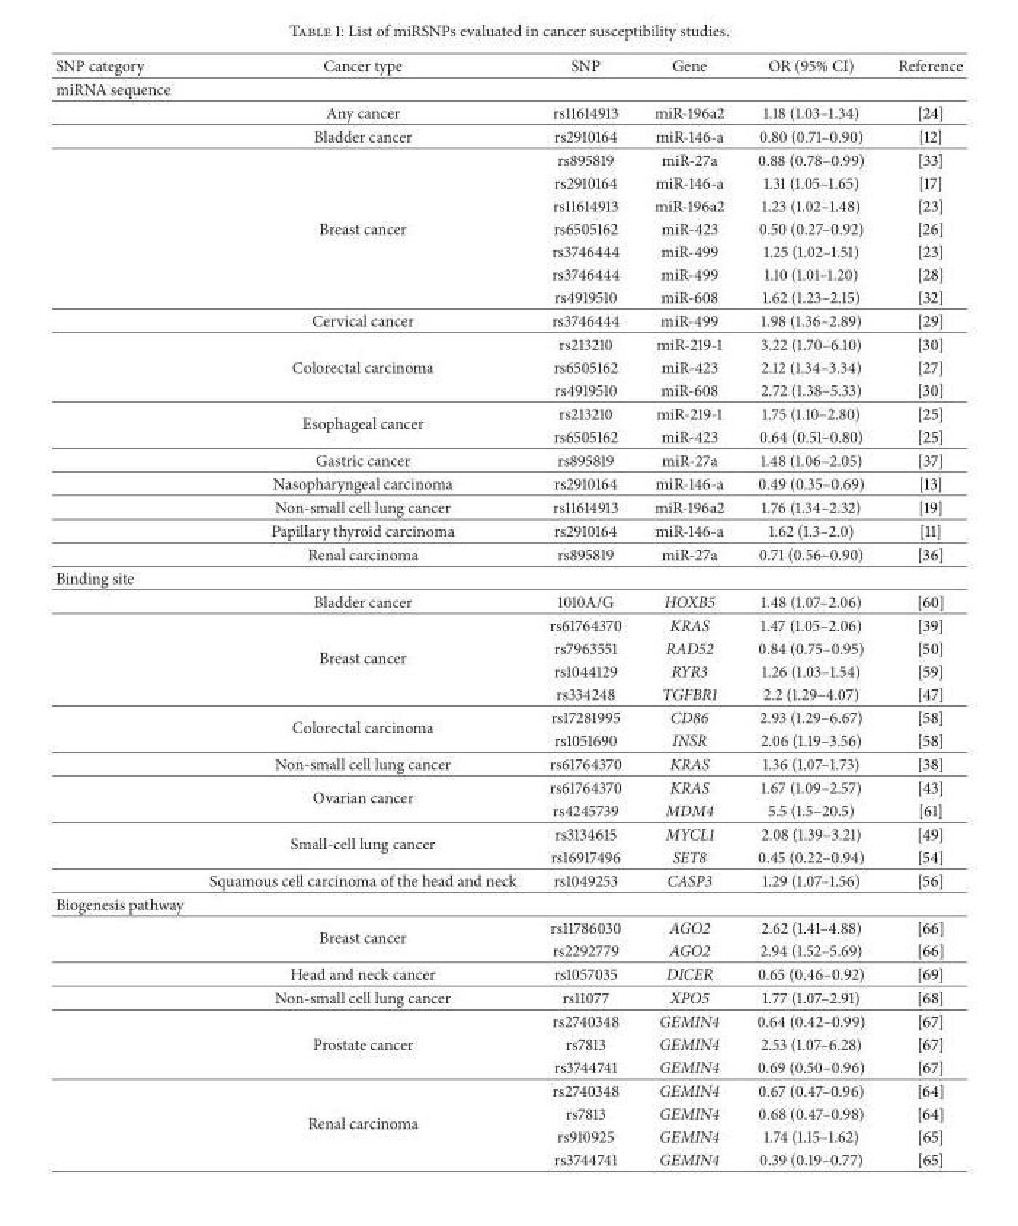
<table><thead><tr><td>SNP category</td><td>Cancer type</td><td>SNP</td><td>Gene</td><td>OR (95% CI)</td><td>Reference</td></tr></thead><tbody><tr><td colspan="6">miRNA sequence</td></tr><tr><td></td><td>Any cancer</td><td>rs11614913</td><td>miR-196a2</td><td>1.18 (1.03–1.34)</td><td>[24]</td></tr><tr><td></td><td>Bladder cancer</td><td>rs2910164</td><td>miR-146-a</td><td>0.80 (0.71–0.90)</td><td>[12]</td></tr><tr><td></td><td></td><td>rs895819</td><td>miR-27a</td><td>0.88 (0.78–0.99)</td><td>[33]</td></tr><tr><td></td><td></td><td>rs2910164</td><td>miR-146-a</td><td>1.31 (1.05–1.65)</td><td>[17]</td></tr><tr><td></td><td></td><td>rs11614913</td><td>miR-196a2</td><td>1.23 (1.02–1.48)</td><td>[23]</td></tr><tr><td></td><td>Breast cancer</td><td>rs6505162</td><td>miR-423</td><td>0.50 (0.27–0.92)</td><td>[26]</td></tr><tr><td></td><td></td><td>rs3746444</td><td>miR-499</td><td>1.25 (1.02–1.51)</td><td>[23]</td></tr><tr><td></td><td></td><td>rs3746444</td><td>miR-499</td><td>1.10 (1.01–1.20)</td><td>[28]</td></tr><tr><td></td><td></td><td>rs4919510</td><td>miR-608</td><td>1.62 (1.23–2.15)</td><td>[32]</td></tr><tr><td></td><td>Cervical cancer</td><td>rs3746444</td><td>miR-499</td><td>1.98 (1.36–2.89)</td><td>[29]</td></tr><tr><td></td><td></td><td>rs213210</td><td>miR-219-1</td><td>3.22 (1.70–6.10)</td><td>[30]</td></tr><tr><td></td><td>Colorectal carcinoma</td><td>rs6505162</td><td>miR-423</td><td>2.12 (1.34–3.34)</td><td>[27]</td></tr><tr><td></td><td></td><td>rs4919510</td><td>miR-608</td><td>2.72 (1.38–5.33)</td><td>[30]</td></tr><tr><td></td><td rowspan="2">Esophageal cancer</td><td>rs213210</td><td>miR-219-1</td><td>1.75 (1.10–2.80)</td><td>[25]</td></tr><tr><td></td><td>rs6505162</td><td>miR-423</td><td>0.64 (0.51–0.80)</td><td>[25]</td></tr><tr><td></td><td>Gastric cancer</td><td>rs895819</td><td>miR-27a</td><td>1.48 (1.06–2.05)</td><td>[37]</td></tr><tr><td></td><td>Nasopharyngeal carcinoma</td><td>rs2910164</td><td>miR-146-a</td><td>0.49 (0.35–0.69)</td><td>[13]</td></tr><tr><td></td><td>Non-small cell lung cancer</td><td>rs11614913</td><td>miR-196a2</td><td>1.76 (1.34–2.32)</td><td>[19]</td></tr><tr><td></td><td>Papillary thyroid carcinoma</td><td>rs2910164</td><td>miR-146-a</td><td>1.62 (1.3–2.0)</td><td>[11]</td></tr><tr><td></td><td>Renal carcinoma</td><td>rs895819</td><td>miR-27a</td><td>0.71 (0.56–0.90)</td><td>[36]</td></tr><tr><td colspan="6">Binding site</td></tr><tr><td></td><td>Bladder cancer</td><td>1010A/G</td><td>HOXB5</td><td>1.48 (1.07–2.06)</td><td>[60]</td></tr><tr><td></td><td></td><td>rs61764370</td><td>KRAS</td><td>1.47 (1.05–2.06)</td><td>[39]</td></tr><tr><td></td><td rowspan="2">Breast cancer</td><td>rs7963551</td><td>RAD52</td><td>0.84 (0.75–0.95)</td><td>[50]</td></tr><tr><td></td><td>rs1044129</td><td>RYR3</td><td>1.26 (1.03–1.54)</td><td>[59]</td></tr><tr><td></td><td></td><td>rs334248</td><td>TGFBR1</td><td>2.2 (1.29–4.07)</td><td>[47]</td></tr><tr><td></td><td rowspan="2">Colorectal carcinoma</td><td>rs17281995</td><td>CD86</td><td>2.93 (1.29–6.67)</td><td>[58]</td></tr><tr><td></td><td>rs1051690</td><td>INSR</td><td>2.06 (1.19–3.56)</td><td>[58]</td></tr><tr><td></td><td>Non-small cell lung cancer</td><td>rs61764370</td><td>KRAS</td><td>1.36 (1.07–1.73)</td><td>[38]</td></tr><tr><td></td><td rowspan="2">Ovarian cancer</td><td>rs61764370</td><td>KRAS</td><td>1.67 (1.09–2.57)</td><td>[43]</td></tr><tr><td></td><td>rs4245739</td><td>MDM4</td><td>5.5 (1.5–20.5)</td><td>[61]</td></tr><tr><td></td><td rowspan="2">Small-cell lung cancer</td><td>rs3134615</td><td>MYCL1</td><td>2.08 (1.39–3.21)</td><td>[49]</td></tr><tr><td></td><td>rs16917496</td><td>SET8</td><td>0.45 (0.22–0.94)</td><td>[54]</td></tr><tr><td></td><td>Squamous cell carcinoma of the head and neck</td><td>rs1049253</td><td>CASP3</td><td>1.29 (1.07–1.56)</td><td>[56]</td></tr><tr><td colspan="6">Biogenesis pathway</td></tr><tr><td></td><td rowspan="2">Breast cancer</td><td>rs11786030</td><td>AGO2</td><td>2.62 (1.41–4.88)</td><td>[66]</td></tr><tr><td></td><td>rs2292779</td><td>AGO2</td><td>2.94 (1.52–5.69)</td><td>[66]</td></tr><tr><td></td><td>Head and neck cancer</td><td>rs1057035</td><td>DICER</td><td>0.65 (0.46–0.92)</td><td>[69]</td></tr><tr><td></td><td>Non-small cell lung cancer</td><td>rs11077</td><td>XPO5</td><td>1.77 (1.07–2.91)</td><td>[68]</td></tr><tr><td></td><td></td><td>rs2740348</td><td>GEMIN4</td><td>0.64 (0.42–0.99)</td><td>[67]</td></tr><tr><td></td><td>Prostate cancer</td><td>rs7813</td><td>GEMIN4</td><td>2.53 (1.07–6.28)</td><td>[67]</td></tr><tr><td></td><td></td><td>rs3744741</td><td>GEMIN4</td><td>0.69 (0.50–0.96)</td><td>[67]</td></tr><tr><td></td><td></td><td>rs2740348</td><td>GEMIN4</td><td>0.67 (0.47–0.96)</td><td>[64]</td></tr><tr><td></td><td rowspan="2">Renal carcinoma</td><td>rs7813</td><td>GEMIN4</td><td>0.68 (0.47–0.98)</td><td>[64]</td></tr><tr><td></td><td>rs910925</td><td>GEMIN4</td><td>1.74 (1.15–1.62)</td><td>[65]</td></tr><tr><td></td><td></td><td>rs3744741</td><td>GEMIN4</td><td>0.39 (0.19–0.77)</td><td>[65]</td></tr></tbody></table>